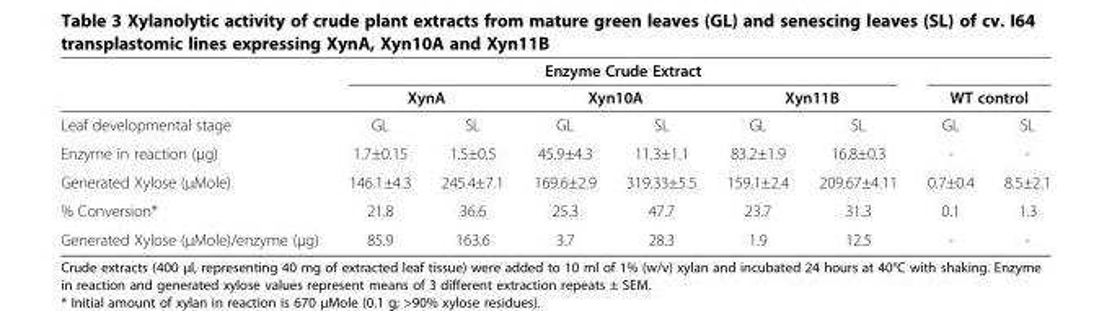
<table><thead><tr><td rowspan="3">Leaf developmental stage</td><td colspan="6">Enzyme Crude Extract</td><td></td><td></td></tr><tr><td colspan="2">XynA</td><td colspan="2">Xyn10A</td><td colspan="2">Xyn11B</td><td colspan="2">WT control</td></tr><tr><td>GL</td><td>SL</td><td>GL</td><td>SL</td><td>GL</td><td>SL</td><td>GL</td><td>SL</td></tr></thead><tbody><tr><td>Enzyme in reaction (μg)</td><td>1.7±0.15</td><td>1.5±0.5</td><td>45.9±4.3</td><td>11.3±1.1</td><td>83.2±1.9</td><td>16.8±0.3</td><td>-</td><td>-</td></tr><tr><td>Generated Xylose (μMole)</td><td>146.1±4.3</td><td>245.4±7.1</td><td>169.6±2.9</td><td>319.33±5.5</td><td>159.1±2.4</td><td>209.67±4.11</td><td>0.7±0.4</td><td>8.5±2.1</td></tr><tr><td>% Conversion*</td><td>21.8</td><td>36.6</td><td>25.3</td><td>47.7</td><td>23.7</td><td>31.3</td><td>0.1</td><td>1.3</td></tr><tr><td>Generated Xylose (μMole)/enzyme (μg)</td><td>85.9</td><td>163.6</td><td>3.7</td><td>28.3</td><td>1.9</td><td>12.5</td><td>-</td><td>-</td></tr></tbody></table>